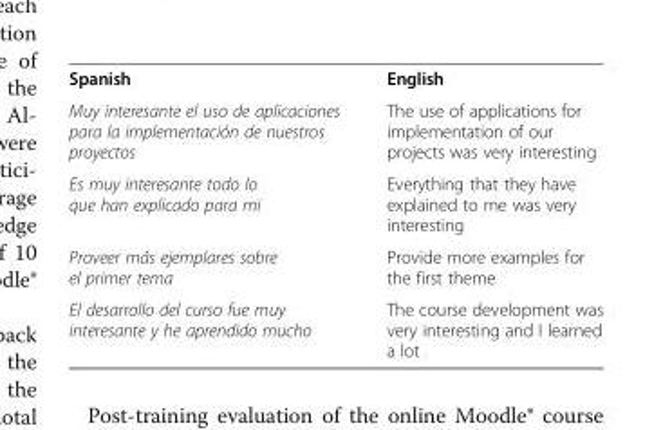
<table><tbody><tr><td>Spanish</td><td>English</td></tr><tr><td>Muy interesante el uso de aplicaciones para la implementación de nuestros proyectos</td><td>The use of applications for implementation of our projects was very interesting</td></tr><tr><td>Es muy interesante todo lo que han explicado para mi</td><td>Everything that they have explained to me was very interesting</td></tr><tr><td>Proveer más ejemplares sobre el primer tema</td><td>Provide more examples for the first theme</td></tr><tr><td>El desarrollo del curso fue muy interesante y he aprendido mucho</td><td>The course development was very interesting and I learned a lot</td></tr></tbody></table>